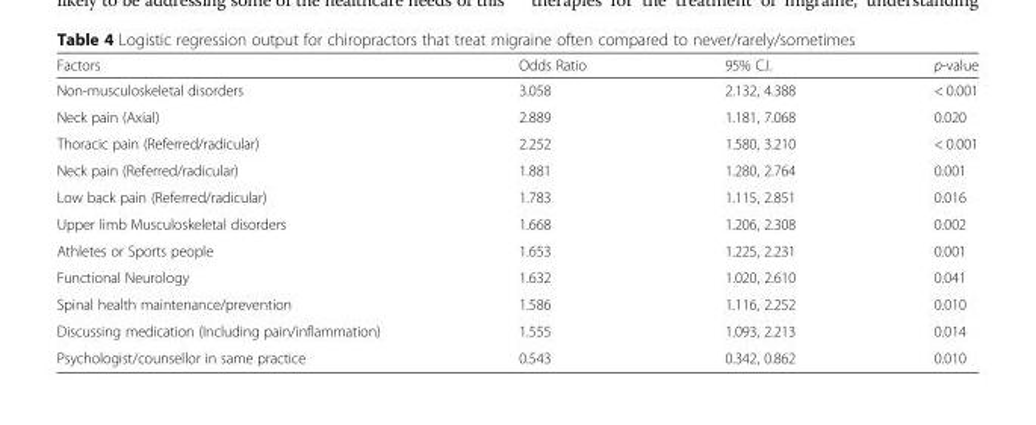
<table><thead><tr><td>Factors</td><td>Odds Ratio</td><td>95% C.I.</td><td>p-value</td></tr></thead><tbody><tr><td>Non-musculoskeletal disorders</td><td>3.058</td><td>2.132, 4.388</td><td>&lt; 0.001</td></tr><tr><td>Neck pain (Axial)</td><td>2.889</td><td>1.181, 7.068</td><td>0.020</td></tr><tr><td>Thoracic pain (Referred/radicular)</td><td>2.252</td><td>1.580, 3.210</td><td>&lt; 0.001</td></tr><tr><td>Neck pain (Referred/radicular)</td><td>1.881</td><td>1.280, 2.764</td><td>0.001</td></tr><tr><td>Low back pain (Referred/radicular)</td><td>1.783</td><td>1.115, 2.851</td><td>0.016</td></tr><tr><td>Upper limb Musculoskeletal disorders</td><td>1.668</td><td>1.206, 2.308</td><td>0.002</td></tr><tr><td>Athletes or Sports people</td><td>1.653</td><td>1.225, 2.231</td><td>0.001</td></tr><tr><td>Functional Neurology</td><td>1.632</td><td>1.020, 2.610</td><td>0.041</td></tr><tr><td>Spinal health maintenance/prevention</td><td>1.586</td><td>1.116, 2.252</td><td>0.010</td></tr><tr><td>Discussing medication (Including pain/inflammation)</td><td>1.555</td><td>1.093, 2.213</td><td>0.014</td></tr><tr><td>Psychologist/counsellor in same practice</td><td>0.543</td><td>0.342, 0.862</td><td>0.010</td></tr></tbody></table>